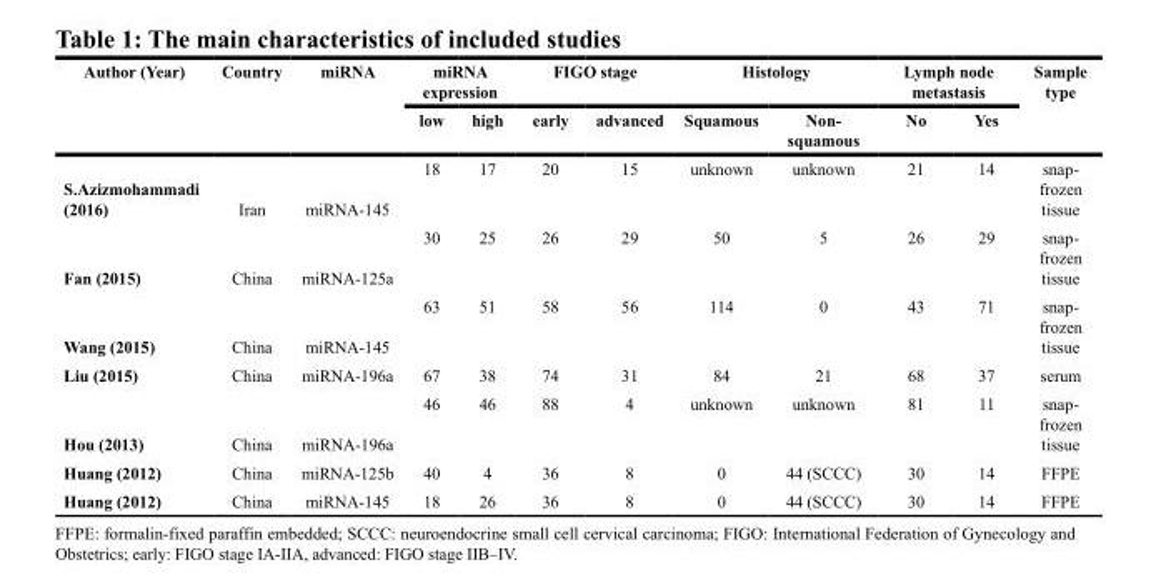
<table><thead><tr><td rowspan="2">Author (Year)</td><td rowspan="2">Country</td><td rowspan="2">miRNA</td><td colspan="2">miRNA expression</td><td colspan="2">FIGO stage</td><td colspan="2">Histology</td><td colspan="2">Lymph node metastasis</td><td rowspan="2">Sample type</td></tr><tr><td>low</td><td>high</td><td>early</td><td>advanced</td><td>Squamous</td><td>Non- squamous</td><td>No</td><td>Yes</td></tr></thead><tbody><tr><td>S.Azizmohammadi (2016)</td><td>Iran</td><td>miRNA-145</td><td>18</td><td>17</td><td>20</td><td>15</td><td>unknown</td><td>unknown</td><td>21</td><td>14</td><td>snap- frozen tissue</td></tr><tr><td>Fan (2015)</td><td>China</td><td>miRNA-125a</td><td>30</td><td>25</td><td>26</td><td>29</td><td>50</td><td>5</td><td>26</td><td>29</td><td>snap- frozen tissue</td></tr><tr><td>Wang (2015)</td><td>China</td><td>miRNA-145</td><td>63</td><td>51</td><td>58</td><td>56</td><td>114</td><td>0</td><td>43</td><td>71</td><td>snap- frozen tissue</td></tr><tr><td>Liu (2015)</td><td>China</td><td>miRNA-196a</td><td>67</td><td>38</td><td>74</td><td>31</td><td>84</td><td>21</td><td>68</td><td>37</td><td>serum</td></tr><tr><td>Hou (2013)</td><td>China</td><td>miRNA-196a</td><td>46</td><td>46</td><td>88</td><td>4</td><td>unknown</td><td>unknown</td><td>81</td><td>11</td><td>snap- frozen tissue</td></tr><tr><td>Huang (2012)</td><td>China</td><td>miRNA-125b</td><td>40</td><td>4</td><td>36</td><td>8</td><td>0</td><td>44 (SCCC)</td><td>30</td><td>14</td><td>FFPE</td></tr><tr><td>Huang (2012)</td><td>China</td><td>miRNA-145</td><td>18</td><td>26</td><td>36</td><td>8</td><td>0</td><td>44 (SCCC)</td><td>30</td><td>14</td><td>FFPE</td></tr></tbody></table>